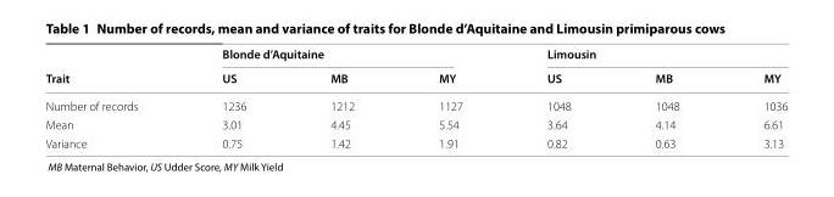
<table><thead><tr><td rowspan="2">Trait</td><td colspan="3">Blonde d’Aquitaine</td><td colspan="3">Limousin</td></tr><tr><td>US</td><td>MB</td><td>MY</td><td>US</td><td>MB</td><td>MY</td></tr></thead><tbody><tr><td>Number of records</td><td>1236</td><td>1212</td><td>1127</td><td>1048</td><td>1048</td><td>1036</td></tr><tr><td>Mean</td><td>3.01</td><td>4.45</td><td>5.54</td><td>3.64</td><td>4.14</td><td>6.61</td></tr><tr><td>Variance</td><td>0.75</td><td>1.42</td><td>1.91</td><td>0.82</td><td>0.63</td><td>3.13</td></tr></tbody></table>